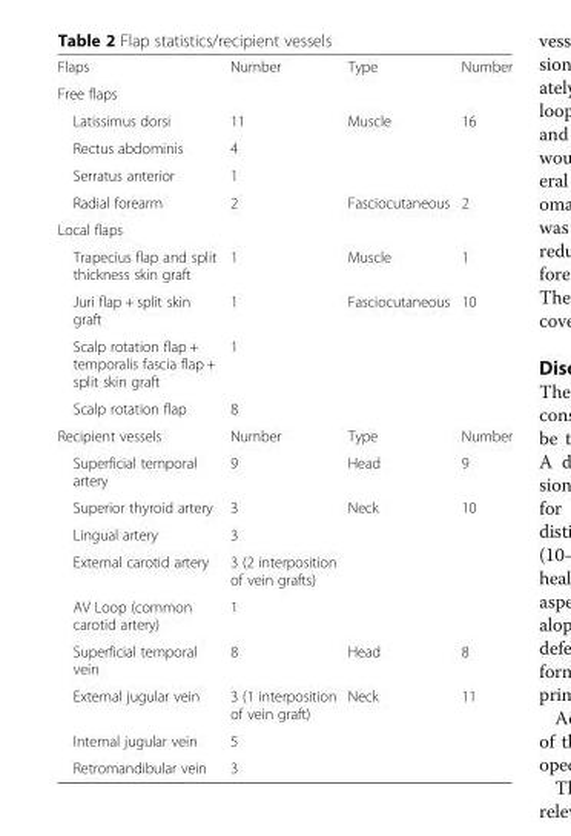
<table><tbody><tr><td>Flaps</td><td>Number</td><td>Type</td><td>Number</td></tr><tr><td colspan="4">Free flaps</td></tr><tr><td>Latissimus dorsi</td><td>11</td><td rowspan="3">Muscle</td><td rowspan="3">16</td></tr><tr><td>Rectus abdominis</td><td>4</td></tr><tr><td>Serratus anterior</td><td>1</td></tr><tr><td>Radial forearm</td><td>2</td><td>Fasciocutaneous</td><td>2</td></tr><tr><td colspan="4">Local flaps</td></tr><tr><td>Trapecius flap and split thickness skin graft</td><td>1</td><td>Muscle</td><td>1</td></tr><tr><td>Juri flap + split skin graft</td><td>1</td><td rowspan="3">Fasciocutaneous</td><td rowspan="3">10</td></tr><tr><td>Scalp rotation flap + temporalis fascia flap + split skin graft</td><td>1</td></tr><tr><td>Scalp rotation flap</td><td>8</td></tr><tr><td>Recipient vessels</td><td>Number</td><td>Type</td><td>Number</td></tr><tr><td>Superficial temporal artery</td><td>9</td><td>Head</td><td>9</td></tr><tr><td>Superior thyroid artery</td><td>3</td><td rowspan="4">Neck</td><td rowspan="4">10</td></tr><tr><td>Lingual artery</td><td>3</td></tr><tr><td>External carotid artery</td><td>3 (2 interposition of vein grafts)</td></tr><tr><td>AV Loop (common carotid artery)</td><td>1</td></tr><tr><td>Superficial temporal vein</td><td>8</td><td>Head</td><td>8</td></tr><tr><td>External jugular vein</td><td>3 (1 interposition of vein graft)</td><td rowspan="3">Neck</td><td rowspan="3">11</td></tr><tr><td>Internal jugular vein</td><td>5</td></tr><tr><td>Retromandibular vein</td><td>3</td></tr></tbody></table>